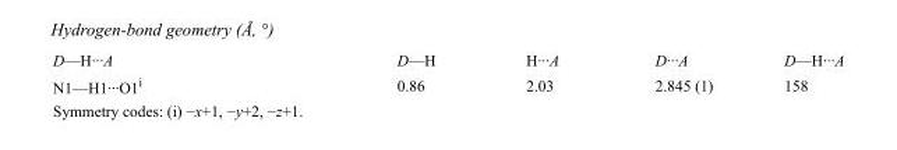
<table><tbody><tr><td>D—H···A</td><td>D—H</td><td>H···A</td><td>D···A</td><td>D—H···A</td></tr><tr><td>N1—H1···O1<sup>i</sup></td><td>0.86</td><td>2.03</td><td>2.845 (1)</td><td>158</td></tr></tbody></table>